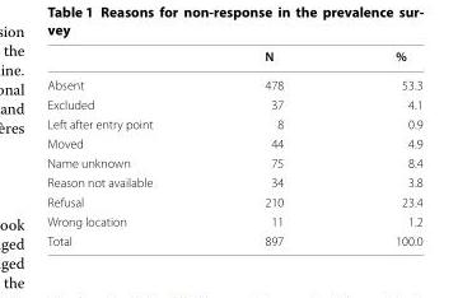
<table><thead><tr><td></td><td>N</td><td>%</td></tr></thead><tbody><tr><td>Absent</td><td>478</td><td>53.3</td></tr><tr><td>Excluded</td><td>37</td><td>4.1</td></tr><tr><td>Left after entry point</td><td>8</td><td>0.9</td></tr><tr><td>Moved</td><td>44</td><td>4.9</td></tr><tr><td>Name unknown</td><td>75</td><td>8.4</td></tr><tr><td>Reason not available</td><td>34</td><td>3.8</td></tr><tr><td>Refusal</td><td>210</td><td>23.4</td></tr><tr><td>Wrong location</td><td>11</td><td>1.2</td></tr><tr><td>Total</td><td>897</td><td>100.0</td></tr></tbody></table>